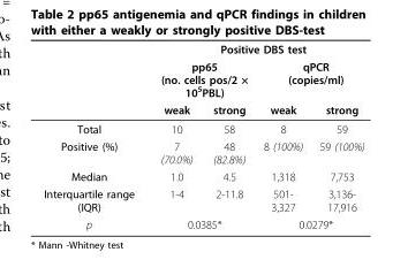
<table><thead><tr><td rowspan="3"></td><td colspan="4">Positive DBS test</td></tr><tr><td colspan="2">pp65 (no. cells pos/2 × 10<sup>5</sup>PBL)</td><td colspan="2">qPCR (copies/ml)</td></tr><tr><td>weak</td><td>strong</td><td>weak</td><td>strong</td></tr></thead><tbody><tr><td>Total</td><td>10</td><td>58</td><td>8</td><td>59</td></tr><tr><td>Positive (%)</td><td>7 (70.0%)</td><td>48 (82.8%)</td><td>8 (100%)</td><td>59 (100%)</td></tr><tr><td>Median</td><td>1.0</td><td>4.5</td><td>1,318</td><td>7,753</td></tr><tr><td>Interquartile range (IQR)</td><td>1-4</td><td>2-11.8</td><td>501- 3,327</td><td>3,136- 17,916</td></tr><tr><td>p</td><td colspan="2">0.0385*</td><td colspan="2">0.0279*</td></tr></tbody></table>